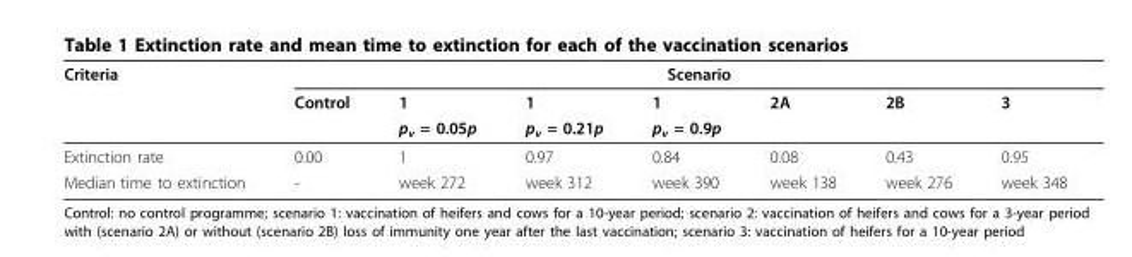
<table><thead><tr><td rowspan="3">Criteria</td><td colspan="7">Scenario</td></tr><tr><td rowspan="2">Control</td><td rowspan="2">1 p<sub>v</sub> = 0.05p</td><td rowspan="2">1 p<sub>v</sub> = 0.21p</td><td rowspan="2">1 pv = 0.9p</td><td rowspan="2">2A</td><td rowspan="2">2B</td><td rowspan="2">3</td></tr><tr></tr></thead><tbody><tr><td>Extinction rate</td><td>0.00</td><td>1</td><td>0.97</td><td>0.84</td><td>0.08</td><td>0.43</td><td>0.95</td></tr><tr><td>Median time to extinction</td><td>-</td><td>week 272</td><td>week 312</td><td>week 390</td><td>week 138</td><td>week 276</td><td>week 348</td></tr></tbody></table>